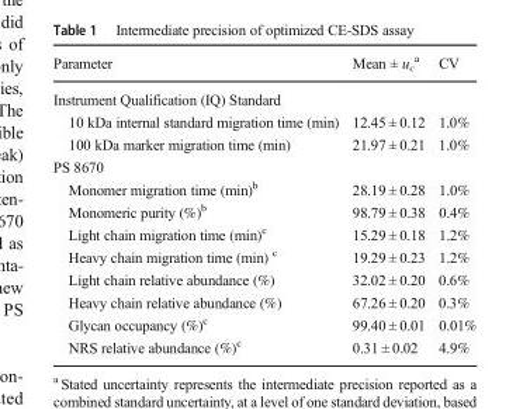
<table><thead><tr><td>Parameter</td><td>Mean ± u<sub>c</sub> <sup>a</sup></td><td>CV</td></tr></thead><tbody><tr><td colspan="3">Instrument Qualification (IQ) Standard</td></tr><tr><td>10 kDa internal standard migration time (min)</td><td>12.45 ± 0.12</td><td>1.0%</td></tr><tr><td>100 kDa marker migration time (min)</td><td>21.97 ± 0.21</td><td>1.0%</td></tr><tr><td colspan="3">PS 8670</td></tr><tr><td>Monomer migration time (min)<sup>b</sup></td><td>28.19 ± 0.28</td><td>1.0%</td></tr><tr><td>Monomeric purity (%)<sup>b</sup></td><td>98.79 ± 0.38</td><td>0.4%</td></tr><tr><td>Light chain migration time (min)<sup>c</sup></td><td>15.29 ± 0.18</td><td>1.2%</td></tr><tr><td>Heavy chain migration time (min) <sup>c</sup></td><td>19.29 ± 0.23</td><td>1.2%</td></tr><tr><td>Light chain relative abundance (%)</td><td>32.02 ± 0.20</td><td>0.6%</td></tr><tr><td>Heavy chain relative abundance (%)</td><td>67.26 ± 0.20</td><td>0.3%</td></tr><tr><td>Glycan occupancy (%)<sup>c</sup></td><td>99.40 ± 0.01</td><td>0.01%</td></tr><tr><td>NRS relative abundance (%)<sup>c</sup></td><td>0.31 ± 0.02</td><td>4.9%</td></tr></tbody></table>